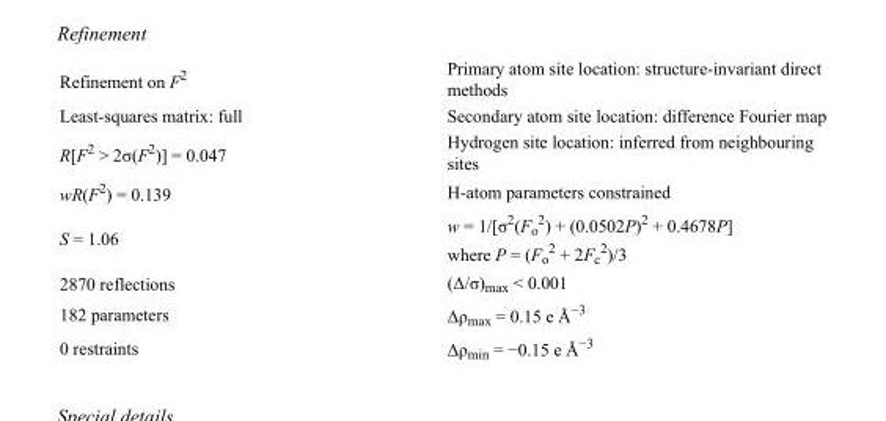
<table><tbody><tr><td>Refinement on F<sup>2</sup></td><td>Primary atom site location: structure-invariant direct methods</td></tr><tr><td>Least-squares matrix: full</td><td>Secondary atom site location: difference Fourier map</td></tr><tr><td>R[F<sup>2</sup> &gt; 2σ(F<sup>2</sup>)] = 0.047</td><td>Hydrogen site location: inferred from neighbouring sites</td></tr><tr><td>wR(F<sup>2</sup>) = 0.139</td><td>H-atom parameters constrained</td></tr><tr><td>S = 1.06</td><td>w = 1/[σ<sup>2</sup>(F<sub>o</sub> <sup>2</sup>) + (0.0502P)<sup>2</sup> + 0.4678P] where P = (F<sub>o</sub> <sup>2</sup> + 2F<sub>c</sub> <sup>2</sup>)/3</td></tr><tr><td>2870 reflections</td><td>(Δ/σ)<sub>max</sub> &lt; 0.001</td></tr><tr><td>182 parameters</td><td>Δρ<sub>max</sub> = 0.15 e Å<sup>−3</sup></td></tr><tr><td>0 restraints</td><td>Δρ<sub>min</sub> = −0.15 e Å<sup>−3</sup></td></tr></tbody></table>